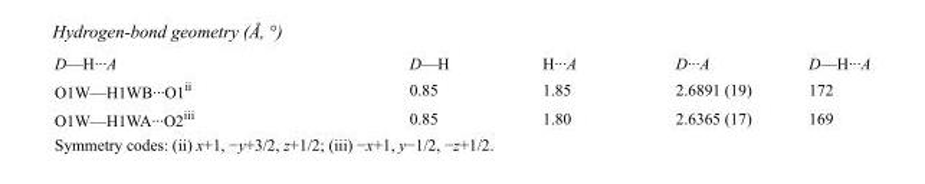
<table><tbody><tr><td>D—H···A</td><td>D—H</td><td>H···A</td><td>D···A</td><td>D—H···A</td></tr><tr><td>O1W—H1WB···O1<sup>ii</sup></td><td>0.85</td><td>1.85</td><td>2.6891 (19)</td><td>172</td></tr><tr><td>O1W—H1WA···O2<sup>iii</sup></td><td>0.85</td><td>1.80</td><td>2.6365 (17)</td><td>169</td></tr></tbody></table>